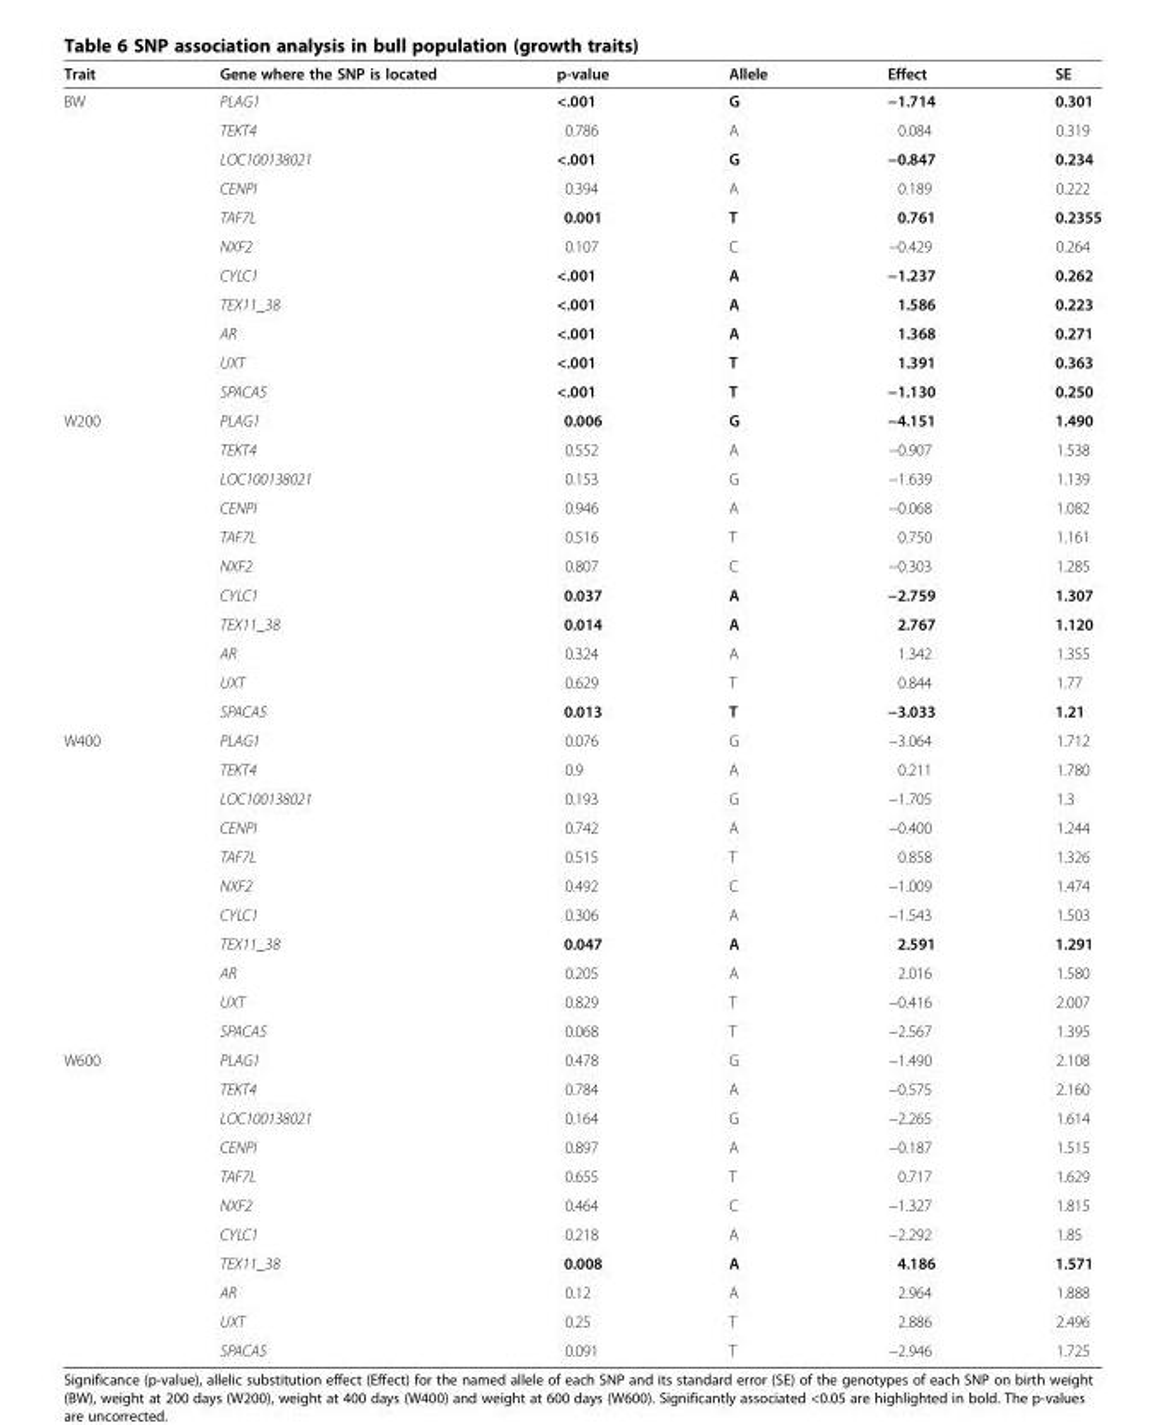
<table><thead><tr><td>Trait</td><td>Gene where the SNP is located</td><td>p-value</td><td>Allele</td><td>Effect</td><td>SE</td></tr></thead><tbody><tr><td rowspan="11">BW</td><td>PLAG1</td><td>&lt;.001</td><td>G</td><td>−1.714</td><td>0.301</td></tr><tr><td>TEKT4</td><td>0.786</td><td>A</td><td>0.084</td><td>0.319</td></tr><tr><td>LOC100138021</td><td>&lt;.001</td><td>G</td><td>−0.847</td><td>0.234</td></tr><tr><td>CENPI</td><td>0.394</td><td>A</td><td>0.189</td><td>0.222</td></tr><tr><td>TAF7L</td><td>0.001</td><td>T</td><td>0.761</td><td>0.2355</td></tr><tr><td>NXF2</td><td>0.107</td><td>C</td><td>−0.429</td><td>0.264</td></tr><tr><td>CYLC1</td><td>&lt;.001</td><td>A</td><td>−1.237</td><td>0.262</td></tr><tr><td>TEX11_38</td><td>&lt;.001</td><td>A</td><td>1.586</td><td>0.223</td></tr><tr><td>AR</td><td>&lt;.001</td><td>A</td><td>1.368</td><td>0.271</td></tr><tr><td>UXT</td><td>&lt;.001</td><td>T</td><td>1.391</td><td>0.363</td></tr><tr><td>SPACA5</td><td>&lt;.001</td><td>T</td><td>−1.130</td><td>0.250</td></tr><tr><td rowspan="11">W200</td><td>PLAG1</td><td>0.006</td><td>G</td><td>−4.151</td><td>1.490</td></tr><tr><td>TEKT4</td><td>0.552</td><td>A</td><td>−0.907</td><td>1.538</td></tr><tr><td>LOC100138021</td><td>0.153</td><td>G</td><td>−1.639</td><td>1.139</td></tr><tr><td>CENPI</td><td>0.946</td><td>A</td><td>−0.068</td><td>1.082</td></tr><tr><td>TAF7L</td><td>0.516</td><td>T</td><td>0.750</td><td>1.161</td></tr><tr><td>NXF2</td><td>0.807</td><td>C</td><td>−0.303</td><td>1.285</td></tr><tr><td>CYLC1</td><td>0.037</td><td>A</td><td>−2.759</td><td>1.307</td></tr><tr><td>TEX11_38</td><td>0.014</td><td>A</td><td>2.767</td><td>1.120</td></tr><tr><td>AR</td><td>0.324</td><td>A</td><td>1.342</td><td>1.355</td></tr><tr><td>UXT</td><td>0.629</td><td>T</td><td>0.844</td><td>1.77</td></tr><tr><td>SPACA5</td><td>0.013</td><td>T</td><td>−3.033</td><td>1.21</td></tr><tr><td rowspan="11">W400</td><td>PLAG1</td><td>0.076</td><td>G</td><td>−3.064</td><td>1.712</td></tr><tr><td>TEKT4</td><td>0.9</td><td>A</td><td>0.211</td><td>1.780</td></tr><tr><td>LOC100138021</td><td>0.193</td><td>G</td><td>−1.705</td><td>1.3</td></tr><tr><td>CENPI</td><td>0.742</td><td>A</td><td>−0.400</td><td>1.244</td></tr><tr><td>TAF7L</td><td>0.515</td><td>T</td><td>0.858</td><td>1.326</td></tr><tr><td>NXF2</td><td>0.492</td><td>C</td><td>−1.009</td><td>1.474</td></tr><tr><td>CYLC1</td><td>0.306</td><td>A</td><td>−1.543</td><td>1.503</td></tr><tr><td>TEX11_38</td><td>0.047</td><td>A</td><td>2.591</td><td>1.291</td></tr><tr><td>AR</td><td>0.205</td><td>A</td><td>2.016</td><td>1.580</td></tr><tr><td>UXT</td><td>0.829</td><td>T</td><td>−0.416</td><td>2.007</td></tr><tr><td>SPACA5</td><td>0.068</td><td>T</td><td>−2.567</td><td>1.395</td></tr><tr><td rowspan="11">W600</td><td>PLAG1</td><td>0.478</td><td>G</td><td>−1.490</td><td>2.108</td></tr><tr><td>TEKT4</td><td>0.784</td><td>A</td><td>−0.575</td><td>2.160</td></tr><tr><td>LOC100138021</td><td>0.164</td><td>G</td><td>−2.265</td><td>1.614</td></tr><tr><td>CENPI</td><td>0.897</td><td>A</td><td>−0.187</td><td>1.515</td></tr><tr><td>TAF7L</td><td>0.655</td><td>T</td><td>0.717</td><td>1.629</td></tr><tr><td>NXF2</td><td>0.464</td><td>C</td><td>−1.327</td><td>1.815</td></tr><tr><td>CYLC1</td><td>0.218</td><td>A</td><td>−2.292</td><td>1.85</td></tr><tr><td>TEX11_38</td><td>0.008</td><td>A</td><td>4.186</td><td>1.571</td></tr><tr><td>AR</td><td>0.12</td><td>A</td><td>2.964</td><td>1.888</td></tr><tr><td>UXT</td><td>0.25</td><td>T</td><td>2.886</td><td>2.496</td></tr><tr><td>SPACA5</td><td>0.091</td><td>T</td><td>−2.946</td><td>1.725</td></tr></tbody></table>